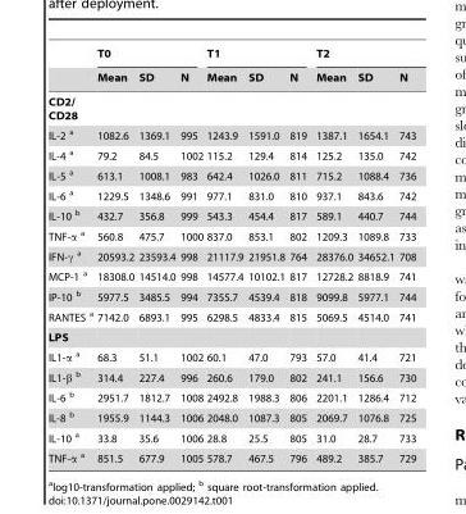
<table><thead><tr><td rowspan="2"></td><td colspan="3">T0</td><td colspan="3">T1</td><td colspan="3">T2</td></tr><tr><td>Mean</td><td>SD</td><td>N</td><td>Mean</td><td>SD</td><td>N</td><td>Mean</td><td>SD</td><td>N</td></tr></thead><tbody><tr><td colspan="10">CD2/ CD28</td></tr><tr><td>IL-2 a</td><td>1082.6</td><td>1369.1</td><td>995</td><td>1243.9</td><td>1591.0</td><td>819</td><td>1387.1</td><td>1654.1</td><td>743</td></tr><tr><td>IL-4 a</td><td>79.2</td><td>84.5</td><td>1002</td><td>115.2</td><td>129.4</td><td>814</td><td>125.2</td><td>135.0</td><td>742</td></tr><tr><td>IL-5 a</td><td>613.1</td><td>1008.1</td><td>983</td><td>642.4</td><td>1026.0</td><td>811</td><td>715.2</td><td>1088.4</td><td>736</td></tr><tr><td>IL-6 a</td><td>1229.5</td><td>1348.6</td><td>991</td><td>977.1</td><td>831.0</td><td>810</td><td>937.1</td><td>843.6</td><td>742</td></tr><tr><td>IL-10 <sup>b</sup></td><td>432.7</td><td>356.8</td><td>999</td><td>543.3</td><td>454.4</td><td>817</td><td>589.1</td><td>440.7</td><td>744</td></tr><tr><td>TNF-α a</td><td>560.8</td><td>475.7</td><td>1000</td><td>837.0</td><td>853.1</td><td>802</td><td>1209.3</td><td>1089.8</td><td>733</td></tr><tr><td>IFN-γ a</td><td>20593.2</td><td>23593.4</td><td>998</td><td>21117.9</td><td>21951.8</td><td>764</td><td>28376.0</td><td>34652.1</td><td>708</td></tr><tr><td>MCP-1 a</td><td>18308.0</td><td>14514.0</td><td>998</td><td>14577.4</td><td>10102.1</td><td>817</td><td>12728.2</td><td>8818.9</td><td>741</td></tr><tr><td>IP-10 <sup>b</sup></td><td>5977.5</td><td>3485.5</td><td>994</td><td>7355.7</td><td>4539.4</td><td>818</td><td>9099.8</td><td>5977.1</td><td>744</td></tr><tr><td>RANTES a</td><td>7142.0</td><td>6893.1</td><td>995</td><td>6298.5</td><td>4833.4</td><td>815</td><td>5069.5</td><td>4514.0</td><td>741</td></tr><tr><td colspan="10">LPS</td></tr><tr><td>IL1-α a</td><td>68.3</td><td>51.1</td><td>1002</td><td>60.1</td><td>47.0</td><td>793</td><td>57.0</td><td>41.4</td><td>721</td></tr><tr><td>IL1-β <sup>b</sup></td><td>314.4</td><td>227.4</td><td>996</td><td>260.6</td><td>179.0</td><td>802</td><td>241.1</td><td>156.6</td><td>730</td></tr><tr><td>IL-6 <sup>b</sup></td><td>2951.7</td><td>1812.7</td><td>1008</td><td>2492.8</td><td>1988.3</td><td>806</td><td>2201.1</td><td>1286.4</td><td>712</td></tr><tr><td>IL-8 <sup>b</sup></td><td>1955.9</td><td>1144.3</td><td>1006</td><td>2048.0</td><td>1087.3</td><td>805</td><td>2069.7</td><td>1076.8</td><td>725</td></tr><tr><td>IL-10 a</td><td>33.8</td><td>35.6</td><td>1006</td><td>28.8</td><td>25.5</td><td>805</td><td>31.0</td><td>28.7</td><td>733</td></tr><tr><td>TNF-α a</td><td>851.5</td><td>677.9</td><td>1005</td><td>578.7</td><td>467.5</td><td>796</td><td>489.2</td><td>385.7</td><td>729</td></tr></tbody></table>